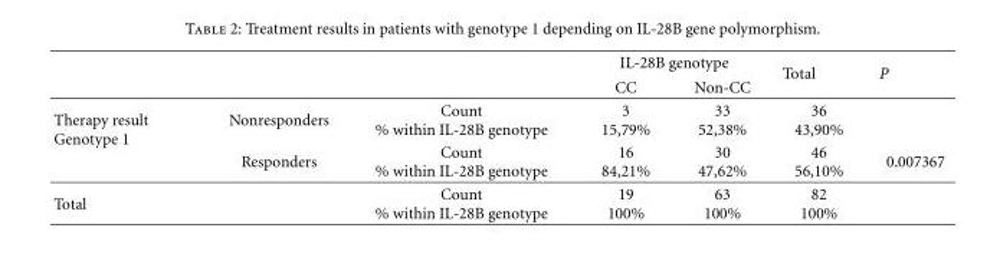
<table><thead><tr><td rowspan="2"></td><td rowspan="2"></td><td rowspan="2"></td><td colspan="2">IL-28B genotype</td><td rowspan="2">Total</td><td rowspan="2">P</td></tr><tr><td>CC</td><td>Non-CC</td></tr></thead><tbody><tr><td rowspan="2">Therapy result Genotype 1</td><td>Nonresponders</td><td>Count % within IL-28B genotype</td><td>3 15,79%</td><td>33 52,38%</td><td>36 43,90%</td><td></td></tr><tr><td>Responders</td><td>Count % within IL-28B genotype</td><td>16 84,21%</td><td>30 47,62%</td><td>46 56,10%</td><td>0.007367</td></tr><tr><td>Total</td><td></td><td>Count % within IL-28B genotype</td><td>19 100%</td><td>63 100%</td><td>82 100%</td><td></td></tr></tbody></table>